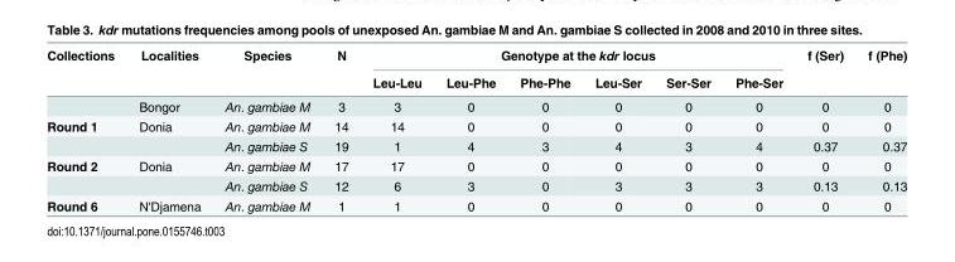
<table><thead><tr><td rowspan="2">Collections</td><td rowspan="2">Localities</td><td rowspan="2">Species</td><td rowspan="2">N</td><td colspan="6">Genotype at the kdr locus</td><td rowspan="2">f (Ser)</td><td rowspan="2">f (Phe)</td></tr><tr><td>Leu-Leu</td><td>Leu-Phe</td><td>Phe-Phe</td><td>Leu-Ser</td><td>Ser-Ser</td><td>Phe-Ser</td></tr></thead><tbody><tr><td></td><td>Bongor</td><td>An. gambiae M</td><td>3</td><td>3</td><td>0</td><td>0</td><td>0</td><td>0</td><td>0</td><td>0</td><td>0</td></tr><tr><td rowspan="2">Round 1</td><td>Donia</td><td>An. gambiae M</td><td>14</td><td>14</td><td>0</td><td>0</td><td>0</td><td>0</td><td>0</td><td>0</td><td>0</td></tr><tr><td></td><td>An. gambiae S</td><td>19</td><td>1</td><td>4</td><td>3</td><td>4</td><td>3</td><td>4</td><td>0.37</td><td>0.37</td></tr><tr><td rowspan="2">Round 2</td><td>Donia</td><td>An. gambiae M</td><td>17</td><td>17</td><td>0</td><td>0</td><td>0</td><td>0</td><td>0</td><td>0</td><td>0</td></tr><tr><td></td><td>An. gambiae S</td><td>12</td><td>6</td><td>3</td><td>0</td><td>3</td><td>3</td><td>3</td><td>0.13</td><td>0.13</td></tr><tr><td>Round 6</td><td>N&#x27;Djamena</td><td>An. gambiae M</td><td>1</td><td>1</td><td>0</td><td>0</td><td>0</td><td>0</td><td>0</td><td>0</td><td>0</td></tr></tbody></table>